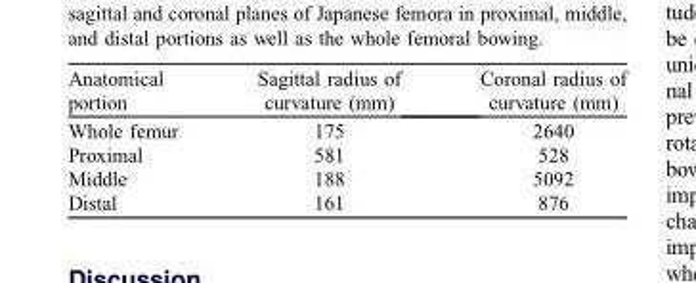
<table><thead><tr><td>Anatomical portion</td><td>Sagittal radius of curvature (mm)</td><td>Coronal radius of curvature (mm)</td></tr></thead><tbody><tr><td>Whole femur</td><td>175</td><td>2640</td></tr><tr><td>Proximal</td><td>581</td><td>528</td></tr><tr><td>Middle</td><td>188</td><td>5092</td></tr><tr><td>Distal</td><td>161</td><td>876</td></tr></tbody></table>